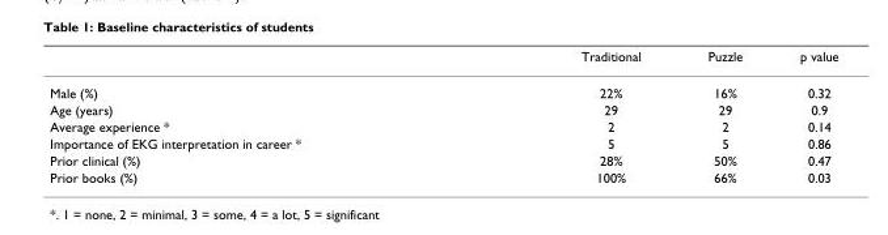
<table><thead><tr><td></td><td>Traditional</td><td>Puzzle</td><td>p value</td></tr></thead><tbody><tr><td>Male (%)</td><td>22%</td><td>16%</td><td>0.32</td></tr><tr><td>Age (years)</td><td>29</td><td>29</td><td>0.9</td></tr><tr><td>Average experience *</td><td>2</td><td>2</td><td>0.14</td></tr><tr><td>Importance of EKG interpretation in career *</td><td>5</td><td>5</td><td>0.86</td></tr><tr><td>Prior clinical (%)</td><td>28%</td><td>50%</td><td>0.47</td></tr><tr><td>Prior books (%)</td><td>100%</td><td>66%</td><td>0.03</td></tr></tbody></table>